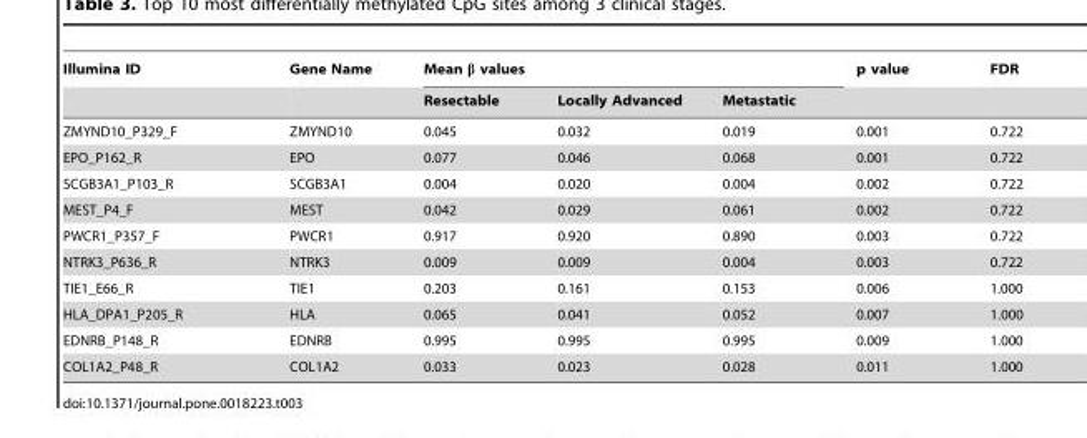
<table><thead><tr><td rowspan="2">Illumina ID</td><td rowspan="2">Gene Name</td><td colspan="3">Mean β values</td><td rowspan="2">p value</td><td rowspan="2">FDR</td></tr><tr><td>Resectable</td><td>Locally Advanced</td><td>Metastatic</td></tr></thead><tbody><tr><td>ZMYND10_P329_F</td><td>ZMYND10</td><td>0.045</td><td>0.032</td><td>0.019</td><td>0.001</td><td>0.722</td></tr><tr><td>EPO_P162_R</td><td>EPO</td><td>0.077</td><td>0.046</td><td>0.068</td><td>0.001</td><td>0.722</td></tr><tr><td>SCGB3A1_P103_R</td><td>SCGB3A1</td><td>0.004</td><td>0.020</td><td>0.004</td><td>0.002</td><td>0.722</td></tr><tr><td>MEST_P4_F</td><td>MEST</td><td>0.042</td><td>0.029</td><td>0.061</td><td>0.002</td><td>0.722</td></tr><tr><td>PWCR1_P357_F</td><td>PWCR1</td><td>0.917</td><td>0.920</td><td>0.890</td><td>0.003</td><td>0.722</td></tr><tr><td>NTRK3_P636_R</td><td>NTRK3</td><td>0.009</td><td>0.009</td><td>0.004</td><td>0.003</td><td>0.722</td></tr><tr><td>TIE1_E66_R</td><td>TIE1</td><td>0.203</td><td>0.161</td><td>0.153</td><td>0.006</td><td>1.000</td></tr><tr><td>HLA_DPA1_P205_R</td><td>HLA</td><td>0.065</td><td>0.041</td><td>0.052</td><td>0.007</td><td>1.000</td></tr><tr><td>EDNRB_P148_R</td><td>EDNRB</td><td>0.995</td><td>0.995</td><td>0.995</td><td>0.009</td><td>1.000</td></tr><tr><td>COL1A2_P48_R</td><td>COL1A2</td><td>0.033</td><td>0.023</td><td>0.028</td><td>0.011</td><td>1.000</td></tr></tbody></table>